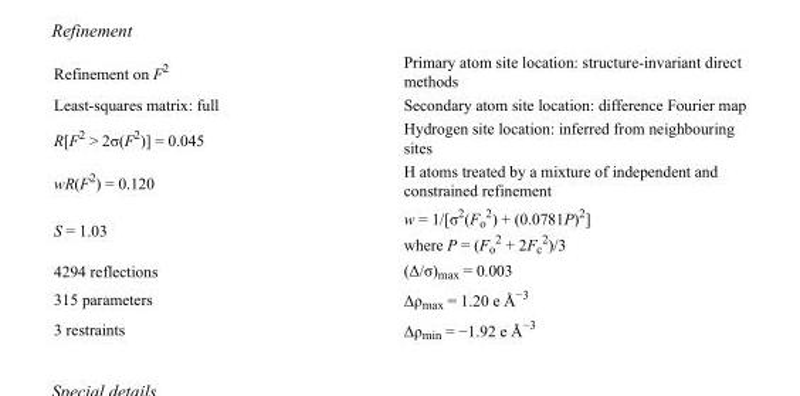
<table><tbody><tr><td>Refinement on F<sup>2</sup></td><td>Primary atom site location: structure-invariant direct methods</td></tr><tr><td>Least-squares matrix: full</td><td>Secondary atom site location: difference Fourier map</td></tr><tr><td>R[F<sup>2</sup> &gt; 2σ(F<sup>2</sup>)] = 0.045</td><td>Hydrogen site location: inferred from neighbouring sites</td></tr><tr><td>wR(F<sup>2</sup>) = 0.120</td><td>H atoms treated by a mixture of independent and constrained refinement</td></tr><tr><td>S = 1.03</td><td>w = 1/[σ<sup>2</sup>(F<sub>o</sub> <sup>2</sup>) + (0.0781P)<sup>2</sup>] where P = (F<sub>o</sub> <sup>2</sup> + 2F<sub>c</sub> <sup>2</sup>)/3</td></tr><tr><td>4294 reflections</td><td>(Δ/σ)<sub>max</sub> = 0.003</td></tr><tr><td>315 parameters</td><td>Δρ<sub>max</sub> = 1.20 e Å<sup>−3</sup></td></tr><tr><td>3 restraints</td><td>Δρ<sub>min</sub> = −1.92 e Å<sup>−3</sup></td></tr></tbody></table>